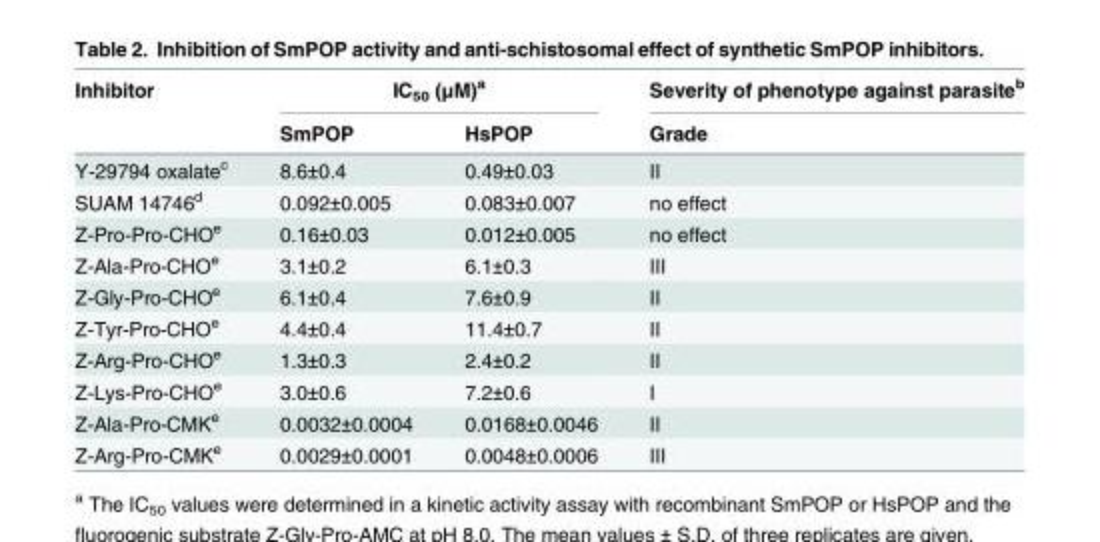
<table><thead><tr><td rowspan="2">Inhibitor</td><td colspan="2">IC<sub>50</sub> (μM)<sup>a</sup></td><td rowspan="2">Severity of phenotype against parasite<sup>b</sup> Grade</td></tr><tr><td>SmPOP</td><td>HsPOP</td></tr></thead><tbody><tr><td>Y-29794 oxalate<sup>c</sup></td><td>8.6±0.4</td><td>0.49±0.03</td><td>II</td></tr><tr><td>SUAM 14746<sup>d</sup></td><td>0.092±0.005</td><td>0.083±0.007</td><td>no effect</td></tr><tr><td>Z-Pro-Pro-CHO<sup>e</sup></td><td>0.16±0.03</td><td>0.012±0.005</td><td>no effect</td></tr><tr><td>Z-Ala-Pro-CHO<sup>e</sup></td><td>3.1±0.2</td><td>6.1±0.3</td><td>III</td></tr><tr><td>Z-Gly-Pro-CHO<sup>e</sup></td><td>6.1±0.4</td><td>7.6±0.9</td><td>II</td></tr><tr><td>Z-Tyr-Pro-CHO<sup>e</sup></td><td>4.4±0.4</td><td>11.4±0.7</td><td>II</td></tr><tr><td>Z-Arg-Pro-CHO<sup>e</sup></td><td>1.3±0.3</td><td>2.4±0.2</td><td>II</td></tr><tr><td>Z-Lys-Pro-CHO<sup>e</sup></td><td>3.0±0.6</td><td>7.2±0.6</td><td>I</td></tr><tr><td>Z-Ala-Pro-CMK<sup>e</sup></td><td>0.0032±0.0004</td><td>0.0168±0.0046</td><td>II</td></tr><tr><td>Z-Arg-Pro-CMK<sup>e</sup></td><td>0.0029±0.0001</td><td>0.0048±0.0006</td><td>III</td></tr></tbody></table>